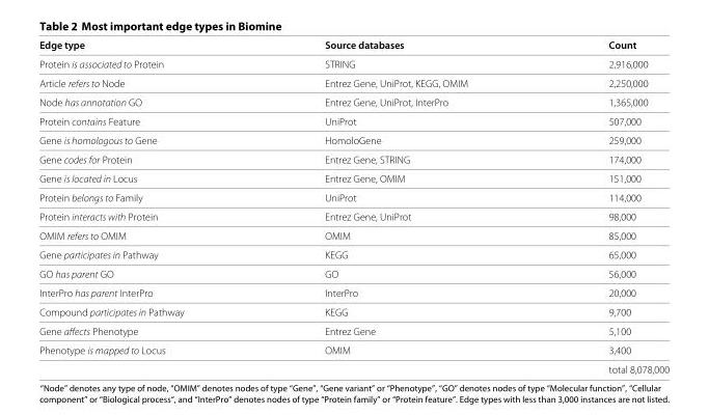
<table><thead><tr><td>Edge type</td><td>Source databases</td><td>Count</td></tr></thead><tbody><tr><td>Protein is associated to Protein</td><td>STRING</td><td>2,916,000</td></tr><tr><td>Article refers to Node</td><td>Entrez Gene, UniProt, KEGG, OMIM</td><td>2,250,000</td></tr><tr><td>Node has annotation GO</td><td>Entrez Gene, UniProt, InterPro</td><td>1,365,000</td></tr><tr><td>Protein contains Feature</td><td>UniProt</td><td>507,000</td></tr><tr><td>Gene is homologous to Gene</td><td>HomoloGene</td><td>259,000</td></tr><tr><td>Gene codes for Protein</td><td>Entrez Gene, STRING</td><td>174,000</td></tr><tr><td>Gene is located in Locus</td><td>Entrez Gene, OMIM</td><td>151,000</td></tr><tr><td>Protein belongs to Family</td><td>UniProt</td><td>114,000</td></tr><tr><td>Protein interacts with Protein</td><td>Entrez Gene, UniProt</td><td>98,000</td></tr><tr><td>OMIM refers to OMIM</td><td>OMIM</td><td>85,000</td></tr><tr><td>Gene participates in Pathway</td><td>KEGG</td><td>65,000</td></tr><tr><td>GO has parent GO</td><td>GO</td><td>56,000</td></tr><tr><td>InterPro has parent InterPro</td><td>InterPro</td><td>20,000</td></tr><tr><td>Compound participates in Pathway</td><td>KEGG</td><td>9,700</td></tr><tr><td>Gene affects Phenotype</td><td>Entrez Gene</td><td>5,100</td></tr><tr><td rowspan="2">Phenotype is mapped to Locus</td><td>OMIM</td><td>3,400</td></tr><tr><td></td><td>total 8,078,000</td></tr></tbody></table>